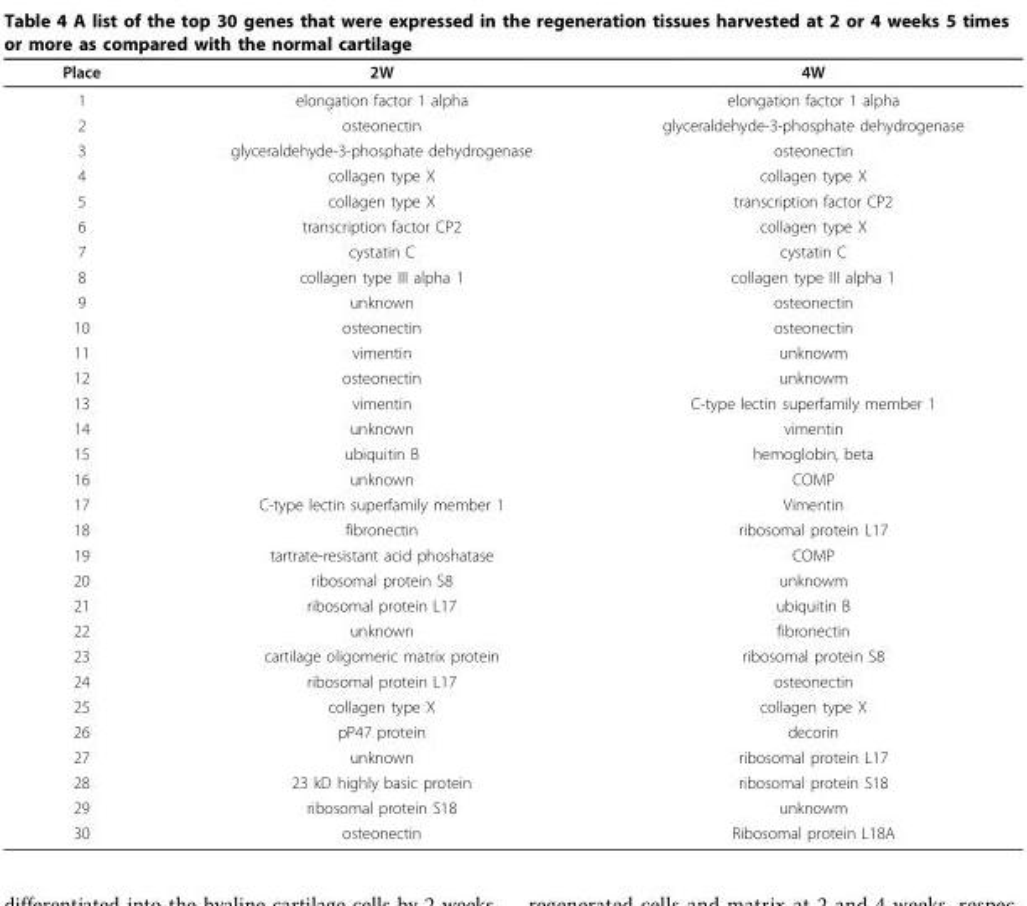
<table><thead><tr><td>Place</td><td>2W</td><td>4W</td></tr></thead><tbody><tr><td>1</td><td>elongation factor 1 alpha</td><td>elongation factor 1 alpha</td></tr><tr><td>2</td><td>osteonectin</td><td>glyceraldehyde-3-phosphate dehydrogenase</td></tr><tr><td>3</td><td>glyceraldehyde-3-phosphate dehydrogenase</td><td>osteonectin</td></tr><tr><td>4</td><td>collagen type X</td><td>collagen type X</td></tr><tr><td>5</td><td>collagen type X</td><td>transcription factor CP2</td></tr><tr><td>6</td><td>transcription factor CP2</td><td>collagen type X</td></tr><tr><td>7</td><td>cystatin C</td><td>cystatin C</td></tr><tr><td>8</td><td>collagen type III alpha 1</td><td>collagen type III alpha 1</td></tr><tr><td>9</td><td>unknown</td><td>osteonectin</td></tr><tr><td>10</td><td>osteonectin</td><td>osteonectin</td></tr><tr><td>11</td><td>vimentin</td><td>unknowm</td></tr><tr><td>12</td><td>osteonectin</td><td>unknowm</td></tr><tr><td>13</td><td>vimentin</td><td>C-type lectin superfamily member 1</td></tr><tr><td>14</td><td>unknown</td><td>vimentin</td></tr><tr><td>15</td><td>ubiquitin B</td><td>hemoglobin, beta</td></tr><tr><td>16</td><td>unknown</td><td>COMP</td></tr><tr><td>17</td><td>C-type lectin superfamily member 1</td><td>Vimentin</td></tr><tr><td>18</td><td>fibronectin</td><td>ribosomal protein L17</td></tr><tr><td>19</td><td>tartrate-resistant acid phoshatase</td><td>COMP</td></tr><tr><td>20</td><td>ribosomal protein S8</td><td>unknowm</td></tr><tr><td>21</td><td>ribosomal protein L17</td><td>ubiquitin B</td></tr><tr><td>22</td><td>unknown</td><td>fibronectin</td></tr><tr><td>23</td><td>cartilage oligomeric matrix protein</td><td>ribosomal protein S8</td></tr><tr><td>24</td><td>ribosomal protein L17</td><td>osteonectin</td></tr><tr><td>25</td><td>collagen type X</td><td>collagen type X</td></tr><tr><td>26</td><td>pP47 protein</td><td>decorin</td></tr><tr><td>27</td><td>unknown</td><td>ribosomal protein L17</td></tr><tr><td>28</td><td>23 kD highly basic protein</td><td>ribosomal protein S18</td></tr><tr><td>29</td><td>ribosomal protein S18</td><td>unknowm</td></tr><tr><td>30</td><td>osteonectin</td><td>Ribosomal protein L18A</td></tr></tbody></table>